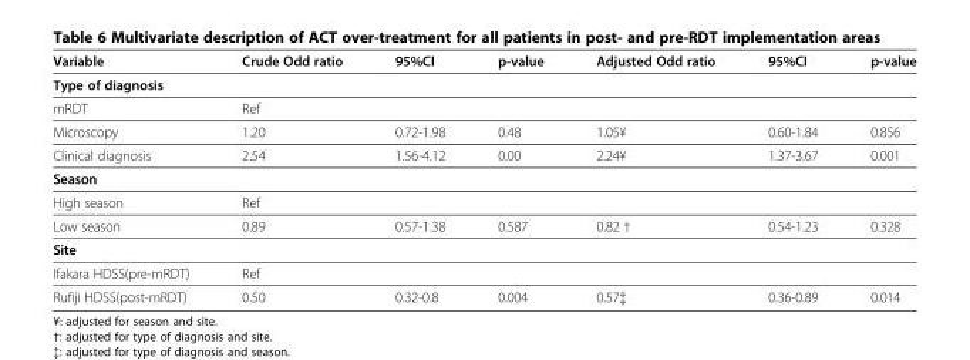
<table><thead><tr><td>Variable</td><td>Crude Odd ratio</td><td>95%CI</td><td>p-value</td><td>Adjusted Odd ratio</td><td>95%CI</td><td>p-value</td></tr></thead><tbody><tr><td colspan="7">Type of diagnosis</td></tr><tr><td>mRDT</td><td>Ref</td><td></td><td></td><td></td><td></td><td></td></tr><tr><td>Microscopy</td><td>1.20</td><td>0.72-1.98</td><td>0.48</td><td>1.05¥</td><td>0.60-1.84</td><td>0.856</td></tr><tr><td>Clinical diagnosis</td><td>2.54</td><td>1.56-4.12</td><td>0.00</td><td>2.24¥</td><td>1.37-3.67</td><td>0.001</td></tr><tr><td colspan="7">Season</td></tr><tr><td>High season</td><td>Ref</td><td></td><td></td><td></td><td></td><td></td></tr><tr><td>Low season</td><td>0.89</td><td>0.57-1.38</td><td>0.587</td><td>0.82 †</td><td>0.54-1.23</td><td>0.328</td></tr><tr><td colspan="7">Site</td></tr><tr><td>Ifakara HDSS(pre-mRDT)</td><td>Ref</td><td></td><td></td><td></td><td></td><td></td></tr><tr><td>Rufiji HDSS(post-mRDT)</td><td>0.50</td><td>0.32-0.8</td><td>0.004</td><td>0.57‡</td><td>0.36-0.89</td><td>0.014</td></tr></tbody></table>